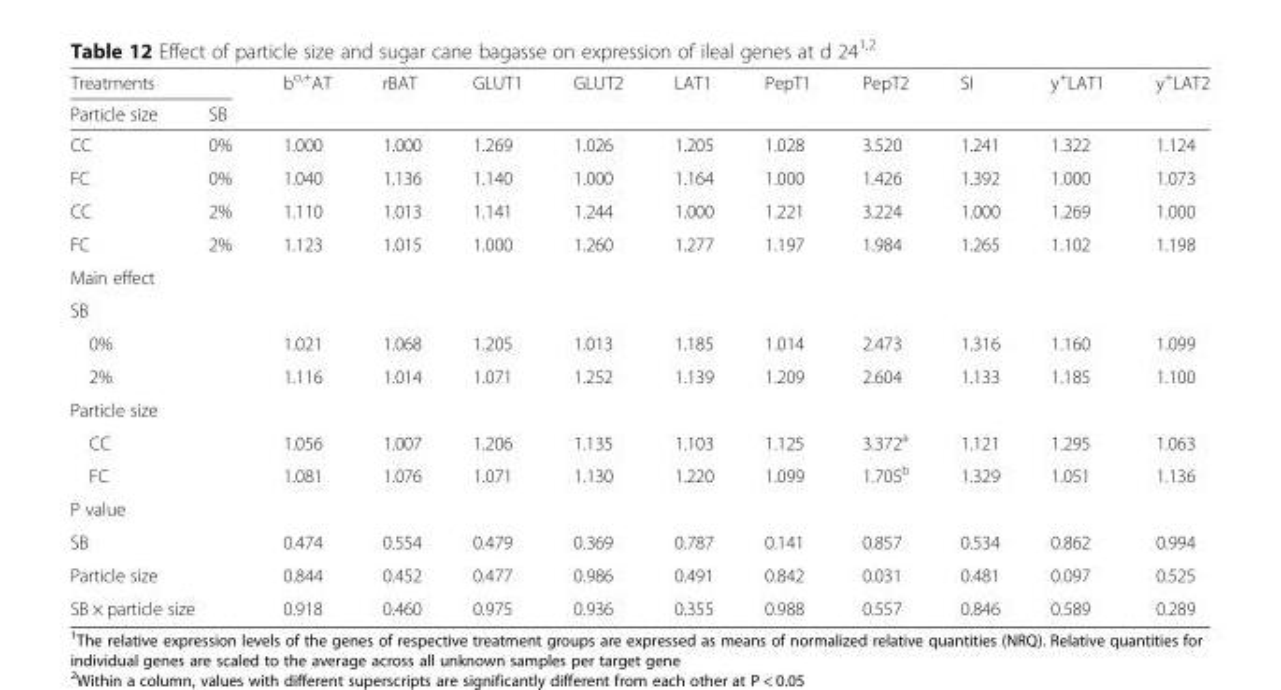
<table><thead><tr><td colspan="2">Treatments</td><td rowspan="2">b<sup>o,+</sup>AT</td><td rowspan="2">rBAT</td><td rowspan="2">GLUT1</td><td rowspan="2">GLUT2</td><td rowspan="2">LAT1</td><td rowspan="2">PepT1</td><td rowspan="2">PepT2</td><td rowspan="2">SI</td><td rowspan="2">y<sup>+</sup>LAT1</td><td rowspan="2">y<sup>+</sup>LAT2</td></tr><tr><td>Particle size</td><td>SB</td></tr></thead><tbody><tr><td>CC</td><td>0%</td><td>1.000</td><td>1.000</td><td>1.269</td><td>1.026</td><td>1.205</td><td>1.028</td><td>3.520</td><td>1.241</td><td>1.322</td><td>1.124</td></tr><tr><td>FC</td><td>0%</td><td>1.040</td><td>1.136</td><td>1.140</td><td>1.000</td><td>1.164</td><td>1.000</td><td>1.426</td><td>1.392</td><td>1.000</td><td>1.073</td></tr><tr><td>CC</td><td>2%</td><td>1.110</td><td>1.013</td><td>1.141</td><td>1.244</td><td>1.000</td><td>1.221</td><td>3.224</td><td>1.000</td><td>1.269</td><td>1.000</td></tr><tr><td>FC</td><td>2%</td><td>1.123</td><td>1.015</td><td>1.000</td><td>1.260</td><td>1.277</td><td>1.197</td><td>1.984</td><td>1.265</td><td>1.102</td><td>1.198</td></tr><tr><td colspan="12">Main effect</td></tr><tr><td colspan="12">SB</td></tr><tr><td colspan="2">0%</td><td>1.021</td><td>1.068</td><td>1.205</td><td>1.013</td><td>1.185</td><td>1.014</td><td>2.473</td><td>1.316</td><td>1.160</td><td>1.099</td></tr><tr><td colspan="2">2%</td><td>1.116</td><td>1.014</td><td>1.071</td><td>1.252</td><td>1.139</td><td>1.209</td><td>2.604</td><td>1.133</td><td>1.185</td><td>1.100</td></tr><tr><td colspan="12">Particle size</td></tr><tr><td colspan="2">CC</td><td>1.056</td><td>1.007</td><td>1.206</td><td>1.135</td><td>1.103</td><td>1.125</td><td>3.372<sup>a</sup></td><td>1.121</td><td>1.295</td><td>1.063</td></tr><tr><td colspan="2">FC</td><td>1.081</td><td>1.076</td><td>1.071</td><td>1.130</td><td>1.220</td><td>1.099</td><td>1.705<sup>b</sup></td><td>1.329</td><td>1.051</td><td>1.136</td></tr><tr><td colspan="12">P value</td></tr><tr><td colspan="2">SB</td><td>0.474</td><td>0.554</td><td>0.479</td><td>0.369</td><td>0.787</td><td>0.141</td><td>0.857</td><td>0.534</td><td>0.862</td><td>0.994</td></tr><tr><td colspan="2">Particle size</td><td>0.844</td><td>0.452</td><td>0.477</td><td>0.986</td><td>0.491</td><td>0.842</td><td>0.031</td><td>0.481</td><td>0.097</td><td>0.525</td></tr><tr><td colspan="2">SB × particle size</td><td>0.918</td><td>0.460</td><td>0.975</td><td>0.936</td><td>0.355</td><td>0.988</td><td>0.557</td><td>0.846</td><td>0.589</td><td>0.289</td></tr></tbody></table>